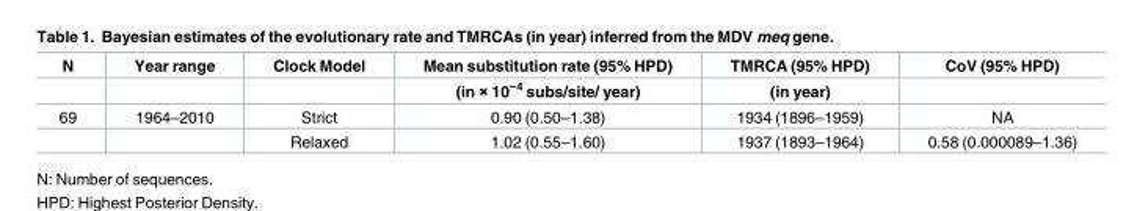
<table><thead><tr><td rowspan="2">N</td><td rowspan="2">Year range</td><td rowspan="2">Clock Model</td><td rowspan="2">Mean substitution rate (95% HPD) (in × 10<sup>−4</sup> subs/site/ year)</td><td rowspan="2">TMRCA (95% HPD) (in year)</td><td rowspan="2">CoV (95% HPD)</td></tr><tr></tr></thead><tbody><tr><td rowspan="2">69</td><td>1964–2010</td><td>Strict</td><td>0.90 (0.50–1.38)</td><td>1934 (1896–1959)</td><td>NA</td></tr><tr><td></td><td>Relaxed</td><td>1.02 (0.55–1.60)</td><td>1937 (1893–1964)</td><td>0.58 (0.000089–1.36)</td></tr></tbody></table>